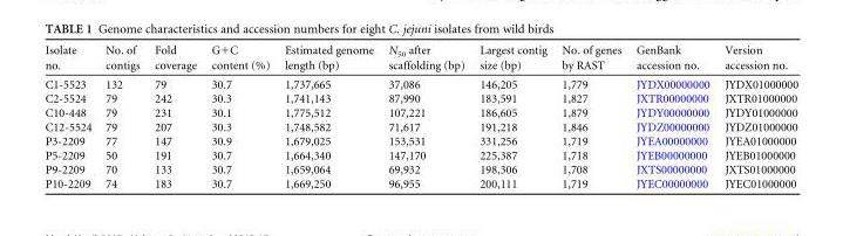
<table><thead><tr><td>Isolate no.</td><td>No. of contigs</td><td>Fold coverage</td><td>G+C content (%)</td><td>Estimated genome length (bp)</td><td>N<sub>50</sub> after scaffolding (bp)</td><td>Largest contig size (bp)</td><td>No. of genes by RAST</td><td>GenBank accession no.</td><td>Version accession no.</td></tr></thead><tbody><tr><td>C1-5523</td><td>132</td><td>79</td><td>30.7</td><td>1,737,665</td><td>37,086</td><td>146,205</td><td>1,779</td><td>JYDX00000000</td><td>JYDX01000000</td></tr><tr><td>C2-5524</td><td>79</td><td>242</td><td>30.3</td><td>1,741,143</td><td>87,990</td><td>183,591</td><td>1,827</td><td>JXTR00000000</td><td>JXTR01000000</td></tr><tr><td>C10-448</td><td>79</td><td>231</td><td>30.1</td><td>1,775,512</td><td>107,221</td><td>186,605</td><td>1,879</td><td>JYDY00000000</td><td>JYDY01000000</td></tr><tr><td>C12-5524</td><td>79</td><td>207</td><td>30.3</td><td>1,748,582</td><td>71,617</td><td>191,218</td><td>1,846</td><td>JYDZ00000000</td><td>JYDZ01000000</td></tr><tr><td>P3-2209</td><td>77</td><td>147</td><td>30.9</td><td>1,679,025</td><td>153,531</td><td>331,256</td><td>1,719</td><td>JYEA00000000</td><td>JYEA01000000</td></tr><tr><td>P5-2209</td><td>50</td><td>191</td><td>30.7</td><td>1,664,340</td><td>147,170</td><td>225,387</td><td>1,718</td><td>JYEB00000000</td><td>JYEB01000000</td></tr><tr><td>P9-2209</td><td>70</td><td>133</td><td>30.7</td><td>1,659,064</td><td>69,932</td><td>198,306</td><td>1,708</td><td>JXTS00000000</td><td>JXTS01000000</td></tr><tr><td>P10-2209</td><td>74</td><td>183</td><td>30.7</td><td>1,669,250</td><td>96,955</td><td>200,111</td><td>1,719</td><td>JYEC00000000</td><td>JYEC01000000</td></tr></tbody></table>